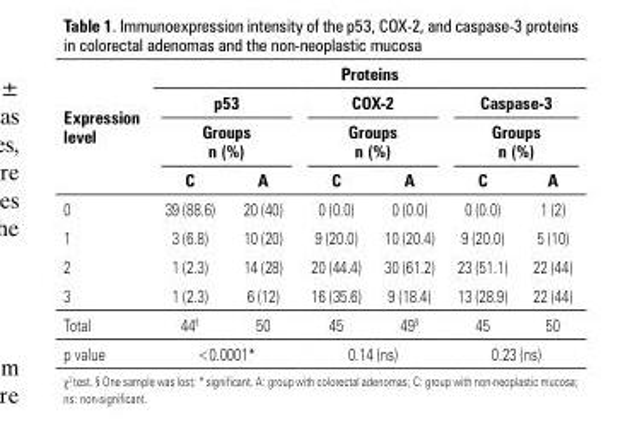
<table><thead><tr><td rowspan="4">Expression level</td><td colspan="6">Proteins</td></tr><tr><td rowspan="2" colspan="2">p53 Groups n (%)</td><td rowspan="2" colspan="2">COX-2 Groups n (%)</td><td rowspan="2" colspan="2">Caspase-3 Groups n (%)</td></tr><tr></tr><tr><td>C</td><td>A</td><td>C</td><td>A</td><td>C</td><td>A</td></tr></thead><tbody><tr><td>0</td><td>39 (88.6)</td><td>20 (40)</td><td>0 (0.0)</td><td>0 (0.0)</td><td>0 (0.0)</td><td>1 (2)</td></tr><tr><td>1</td><td>3 (6.8)</td><td>10 (20)</td><td>9 (20.0)</td><td>10 (20.4)</td><td>9 (20.0)</td><td>5 (10)</td></tr><tr><td>2</td><td>1 (2.3)</td><td>14 (28)</td><td>20 (44.4)</td><td>30 (61.2)</td><td>23 (51.1)</td><td>22 (44)</td></tr><tr><td>3</td><td>1 (2.3)</td><td>6 (12)</td><td>16 (35.6)</td><td>9 (18.4)</td><td>13 (28.9)</td><td>22 (44)</td></tr><tr><td>Total</td><td>44§</td><td>50</td><td>45</td><td>49§</td><td>45</td><td>50</td></tr><tr><td>p value</td><td colspan="2">&lt;0.0001*</td><td colspan="2">0.14 (ns)</td><td colspan="2">0.23 (ns)</td></tr></tbody></table>